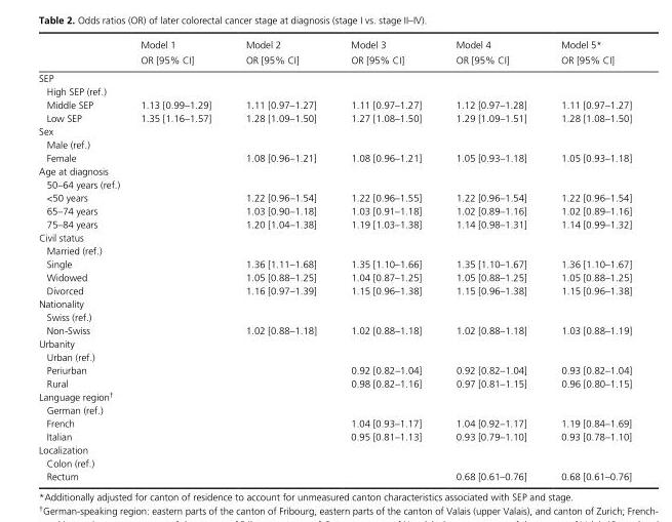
<table><thead><tr><td rowspan="2"></td><td rowspan="2">Model 1 OR [95% CI]</td><td rowspan="2">Model 2 OR [95% CI]</td><td rowspan="2">Model 3 OR [95% CI]</td><td rowspan="2">Model 4 OR [95% CI]</td><td rowspan="2">Model 5* OR [95% CI]</td></tr><tr></tr></thead><tbody><tr><td colspan="6">SEP</td></tr><tr><td colspan="6">High SEP (ref.)</td></tr><tr><td>Middle SEP</td><td>1.13 [0.99–1.29]</td><td>1.11 [0.97–1.27]</td><td>1.11 [0.97–1.27]</td><td>1.12 [0.97–1.28]</td><td>1.11 [0.97–1.27]</td></tr><tr><td>Low SEP</td><td>1.35 [1.16–1.57]</td><td>1.28 [1.09–1.50]</td><td>1.27 [1.08–1.50]</td><td>1.29 [1.09–1.51]</td><td>1.28 [1.08–1.50]</td></tr><tr><td colspan="6">Sex</td></tr><tr><td colspan="6">Male (ref.)</td></tr><tr><td>Female</td><td></td><td>1.08 [0.96–1.21]</td><td>1.08 [0.96–1.21]</td><td>1.05 [0.93–1.18]</td><td>1.05 [0.93–1.18]</td></tr><tr><td colspan="6">Age at diagnosis</td></tr><tr><td colspan="6">50–64 years (ref.)</td></tr><tr><td>&lt;50 years</td><td></td><td>1.22 [0.96–1.54]</td><td>1.22 [0.96–1.55]</td><td>1.22 [0.96–1.54]</td><td>1.22 [0.96–1.54]</td></tr><tr><td>65–74 years</td><td></td><td>1.03 [0.90–1.18]</td><td>1.03 [0.91–1.18]</td><td>1.02 [0.89–1.16]</td><td>1.02 [0.89–1.16]</td></tr><tr><td>75–84 years</td><td></td><td>1.20 [1.04–1.38]</td><td>1.19 [1.03–1.38]</td><td>1.14 [0.98–1.31]</td><td>1.14 [0.99–1.32]</td></tr><tr><td colspan="6">Civil status</td></tr><tr><td colspan="6">Married (ref.)</td></tr><tr><td>Single</td><td></td><td>1.36 [1.11–1.68]</td><td>1.35 [1.10–1.66]</td><td>1.35 [1.10–1.67]</td><td>1.36 [1.10–1.67]</td></tr><tr><td>Widowed</td><td></td><td>1.05 [0.88–1.25]</td><td>1.04 [0.87–1.25]</td><td>1.05 [0.88–1.25]</td><td>1.05 [0.88–1.25]</td></tr><tr><td>Divorced</td><td></td><td>1.16 [0.97–1.39]</td><td>1.15 [0.96–1.38]</td><td>1.15 [0.96–1.38]</td><td>1.15 [0.96–1.38]</td></tr><tr><td colspan="6">Nationality</td></tr><tr><td colspan="6">Swiss (ref.)</td></tr><tr><td>Non- Swiss</td><td></td><td>1.02 [0.88–1.18]</td><td>1.02 [0.88–1.18]</td><td>1.02 [0.88–1.18]</td><td>1.03 [0.88–1.19]</td></tr><tr><td colspan="6">Urbanity</td></tr><tr><td colspan="6">Urban (ref.)</td></tr><tr><td>Periurban</td><td></td><td></td><td>0.92 [0.82–1.04]</td><td>0.92 [0.82–1.04]</td><td>0.93 [0.82–1.04]</td></tr><tr><td>Rural</td><td></td><td></td><td>0.98 [0.82–1.16]</td><td>0.97 [0.81–1.15]</td><td>0.96 [0.80–1.15]</td></tr><tr><td colspan="6">Language region†</td></tr><tr><td colspan="6">German (ref.)</td></tr><tr><td>French</td><td></td><td></td><td>1.04 [0.93–1.17]</td><td>1.04 [0.92–1.17]</td><td>1.19 [0.84–1.69]</td></tr><tr><td>Italian</td><td></td><td></td><td>0.95 [0.81–1.13]</td><td>0.93 [0.79–1.10]</td><td>0.93 [0.78–1.10]</td></tr><tr><td colspan="6">Localization</td></tr><tr><td colspan="6">Colon (ref.)</td></tr><tr><td>Rectum</td><td></td><td></td><td></td><td>0.68 [0.61–0.76]</td><td>0.68 [0.61–0.76]</td></tr></tbody></table>